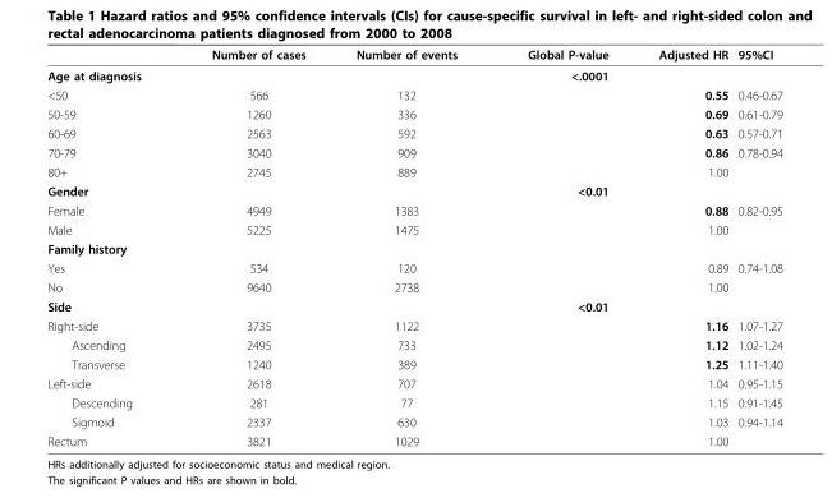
<table><thead><tr><td></td><td>Number of cases</td><td>Number of events</td><td>Global P-value</td><td>Adjusted HR</td><td>95%CI</td></tr></thead><tbody><tr><td>Age at diagnosis</td><td></td><td></td><td>&lt;.0001</td><td></td><td></td></tr><tr><td>&lt;50</td><td>566</td><td>132</td><td></td><td>0.55</td><td>0.46-0.67</td></tr><tr><td>50-59</td><td>1260</td><td>336</td><td></td><td>0.69</td><td>0.61-0.79</td></tr><tr><td>60-69</td><td>2563</td><td>592</td><td></td><td>0.63</td><td>0.57-0.71</td></tr><tr><td>70-79</td><td>3040</td><td>909</td><td></td><td>0.86</td><td>0.78-0.94</td></tr><tr><td>80+</td><td>2745</td><td>889</td><td></td><td>1.00</td><td></td></tr><tr><td>Gender</td><td></td><td></td><td>&lt;0.01</td><td></td><td></td></tr><tr><td>Female</td><td>4949</td><td>1383</td><td></td><td>0.88</td><td>0.82-0.95</td></tr><tr><td>Male</td><td>5225</td><td>1475</td><td></td><td>1.00</td><td></td></tr><tr><td colspan="6">Family history</td></tr><tr><td>Yes</td><td>534</td><td>120</td><td></td><td>0.89</td><td>0.74-1.08</td></tr><tr><td>No</td><td>9640</td><td>2738</td><td></td><td>1.00</td><td></td></tr><tr><td>Side</td><td></td><td></td><td>&lt;0.01</td><td></td><td></td></tr><tr><td>Right-side</td><td>3735</td><td>1122</td><td></td><td>1.16</td><td>1.07-1.27</td></tr><tr><td>Ascending</td><td>2495</td><td>733</td><td></td><td>1.12</td><td>1.02-1.24</td></tr><tr><td>Transverse</td><td>1240</td><td>389</td><td></td><td>1.25</td><td>1.11-1.40</td></tr><tr><td>Left-side</td><td>2618</td><td>707</td><td></td><td>1.04</td><td>0.95-1.15</td></tr><tr><td>Descending</td><td>281</td><td>77</td><td></td><td>1.15</td><td>0.91-1.45</td></tr><tr><td>Sigmoid</td><td>2337</td><td>630</td><td></td><td>1.03</td><td>0.94-1.14</td></tr><tr><td>Rectum</td><td>3821</td><td>1029</td><td></td><td>1.00</td><td></td></tr></tbody></table>